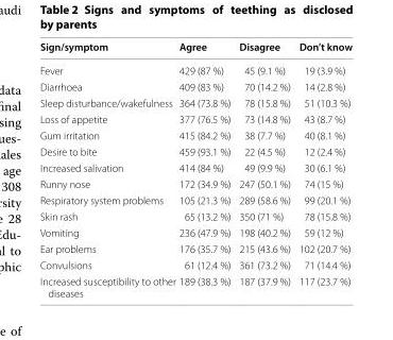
<table><thead><tr><td>Sign/symptom</td><td>Agree</td><td>Disagree</td><td>Don’t know</td></tr></thead><tbody><tr><td>Fever</td><td>429 (87 %)</td><td>45 (9.1 %)</td><td>19 (3.9 %)</td></tr><tr><td>Diarrhoea</td><td>409 (83 %)</td><td>70 (14.2 %)</td><td>14 (2.8 %)</td></tr><tr><td>Sleep disturbance/wakefulness</td><td>364 (73.8 %)</td><td>78 (15.8 %)</td><td>51 (10.3 %)</td></tr><tr><td>Loss of appetite</td><td>377 (76.5 %)</td><td>73 (14.8 %)</td><td>43 (8.7 %)</td></tr><tr><td>Gum irritation</td><td>415 (84.2 %)</td><td>38 (7.7 %)</td><td>40 (8.1 %)</td></tr><tr><td>Desire to bite</td><td>459 (93.1 %)</td><td>22 (4.5 %)</td><td>12 (2.4 %)</td></tr><tr><td>Increased salivation</td><td>414 (84 %)</td><td>49 (9.9 %)</td><td>30 (6.1 %)</td></tr><tr><td>Runny nose</td><td>172 (34.9 %)</td><td>247 (50.1 %)</td><td>74 (15 %)</td></tr><tr><td>Respiratory system problems</td><td>105 (21.3 %)</td><td>289 (58.6 %)</td><td>99 (20.1 %)</td></tr><tr><td>Skin rash</td><td>65 (13.2 %)</td><td>350 (71 %)</td><td>78 (15.8 %)</td></tr><tr><td>Vomiting</td><td>236 (47.9 %)</td><td>198 (40.2 %)</td><td>59 (12 %)</td></tr><tr><td>Ear problems</td><td>176 (35.7 %)</td><td>215 (43.6 %)</td><td>102 (20.7 %)</td></tr><tr><td>Convulsions</td><td>61 (12.4 %)</td><td>361 (73.2 %)</td><td>71 (14.4 %)</td></tr><tr><td>Increased susceptibility to other diseases</td><td>189 (38.3 %)</td><td>187 (37.9 %)</td><td>117 (23.7 %)</td></tr></tbody></table>